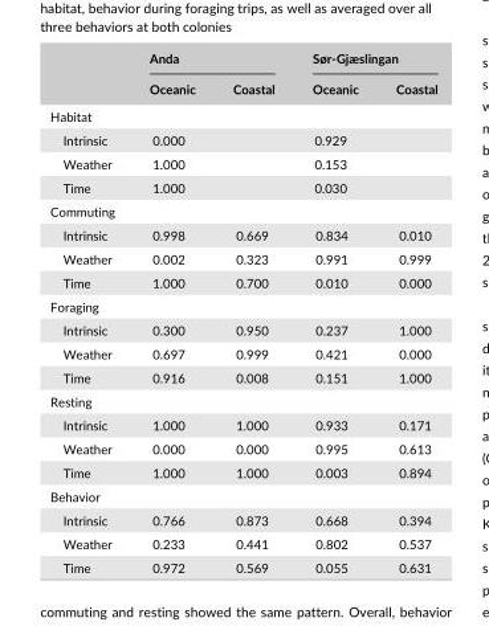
<table><thead><tr><td rowspan="2"></td><td colspan="2">Anda</td><td colspan="2">Sør- Gjæslingan</td></tr><tr><td>Oceanic</td><td>Coastal</td><td>Oceanic</td><td>Coastal</td></tr></thead><tbody><tr><td colspan="5">Habitat</td></tr><tr><td>Intrinsic</td><td>0.000</td><td colspan="2">0.929</td><td></td></tr><tr><td>Weather</td><td>1.000</td><td colspan="2">0.153</td><td></td></tr><tr><td>Time</td><td>1.000</td><td colspan="2">0.030</td><td></td></tr><tr><td colspan="5">Commuting</td></tr><tr><td>Intrinsic</td><td>0.998</td><td>0.669</td><td>0.834</td><td>0.010</td></tr><tr><td>Weather</td><td>0.002</td><td>0.323</td><td>0.991</td><td>0.999</td></tr><tr><td>Time</td><td>1.000</td><td>0.700</td><td>0.010</td><td>0.000</td></tr><tr><td colspan="5">Foraging</td></tr><tr><td>Intrinsic</td><td>0.300</td><td>0.950</td><td>0.237</td><td>1.000</td></tr><tr><td>Weather</td><td>0.697</td><td>0.999</td><td>0.421</td><td>0.000</td></tr><tr><td>Time</td><td>0.916</td><td>0.008</td><td>0.151</td><td>1.000</td></tr><tr><td colspan="5">Resting</td></tr><tr><td>Intrinsic</td><td>1.000</td><td>1.000</td><td>0.933</td><td>0.171</td></tr><tr><td>Weather</td><td>0.000</td><td>0.000</td><td>0.995</td><td>0.613</td></tr><tr><td>Time</td><td>1.000</td><td>1.000</td><td>0.003</td><td>0.894</td></tr><tr><td colspan="5">Behavior</td></tr><tr><td>Intrinsic</td><td>0.766</td><td>0.873</td><td>0.668</td><td>0.394</td></tr><tr><td>Weather</td><td>0.233</td><td>0.441</td><td>0.802</td><td>0.537</td></tr><tr><td>Time</td><td>0.972</td><td>0.569</td><td>0.055</td><td>0.631</td></tr></tbody></table>